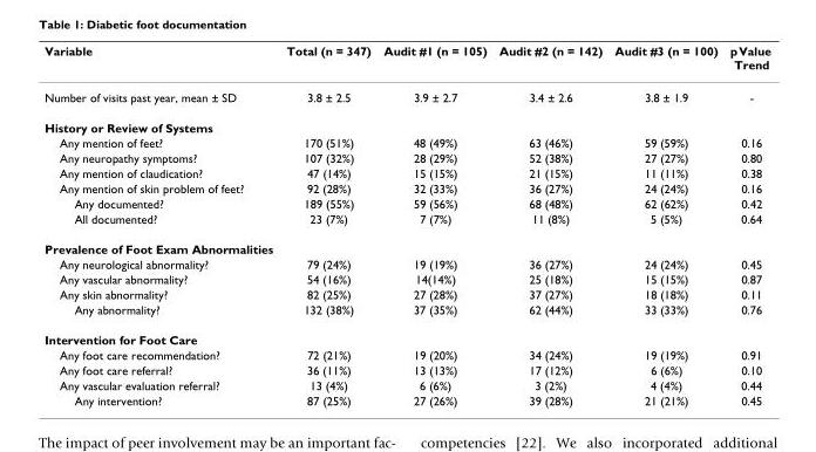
<table><thead><tr><td>Variable</td><td>Total (n = 347)</td><td>Audit #1 (n = 105)</td><td>Audit #2 (n = 142)</td><td>Audit #3 (n = 100)</td><td>p Value Trend</td></tr></thead><tbody><tr><td>Number of visits past year, mean ± SD</td><td>3.8 ± 2.5</td><td>3.9 ± 2.7</td><td>3.4 ± 2.6</td><td>3.8 ± 1.9</td><td>-</td></tr><tr><td colspan="6">History or Review of Systems</td></tr><tr><td>Any mention of feet?</td><td>170 (51%)</td><td>48 (49%)</td><td>63 (46%)</td><td>59 (59%)</td><td>0.16</td></tr><tr><td>Any neuropathy symptoms?</td><td>107 (32%)</td><td>28 (29%)</td><td>52 (38%)</td><td>27 (27%)</td><td>0.80</td></tr><tr><td>Any mention of claudication?</td><td>47 (14%)</td><td>15 (15%)</td><td>21 (15%)</td><td>11 (11%)</td><td>0.38</td></tr><tr><td>Any mention of skin problem of feet?</td><td>92 (28%)</td><td>32 (33%)</td><td>36 (27%)</td><td>24 (24%)</td><td>0.16</td></tr><tr><td>Any documented?</td><td>189 (55%)</td><td>59 (56%)</td><td>68 (48%)</td><td>62 (62%)</td><td>0.42</td></tr><tr><td>All documented?</td><td>23 (7%)</td><td>7 (7%)</td><td>11 (8%)</td><td>5 (5%)</td><td>0.64</td></tr><tr><td colspan="6">Prevalence of Foot Exam Abnormalities</td></tr><tr><td>Any neurological abnormality?</td><td>79 (24%)</td><td>19 (19%)</td><td>36 (27%)</td><td>24 (24%)</td><td>0.45</td></tr><tr><td>Any vascular abnormality?</td><td>54 (16%)</td><td>14(14%)</td><td>25 (18%)</td><td>15 (15%)</td><td>0.87</td></tr><tr><td>Any skin abnormality?</td><td>82 (25%)</td><td>27 (28%)</td><td>37 (27%)</td><td>18 (18%)</td><td>0.11</td></tr><tr><td>Any abnormality?</td><td>132 (38%)</td><td>37 (35%)</td><td>62 (44%)</td><td>33 (33%)</td><td>0.76</td></tr><tr><td colspan="6">Intervention for Foot Care</td></tr><tr><td>Any foot care recommendation?</td><td>72 (21%)</td><td>19 (20%)</td><td>34 (24%)</td><td>19 (19%)</td><td>0.91</td></tr><tr><td>Any foot care referral?</td><td>36 (11%)</td><td>13 (13%)</td><td>17 (12%)</td><td>6 (6%)</td><td>0.10</td></tr><tr><td>Any vascular evaluation referral?</td><td>13 (4%)</td><td>6 (6%)</td><td>3 (2%)</td><td>4 (4%)</td><td>0.44</td></tr><tr><td>Any intervention?</td><td>87 (25%)</td><td>27 (26%)</td><td>39 (28%)</td><td>21 (21%)</td><td>0.45</td></tr></tbody></table>